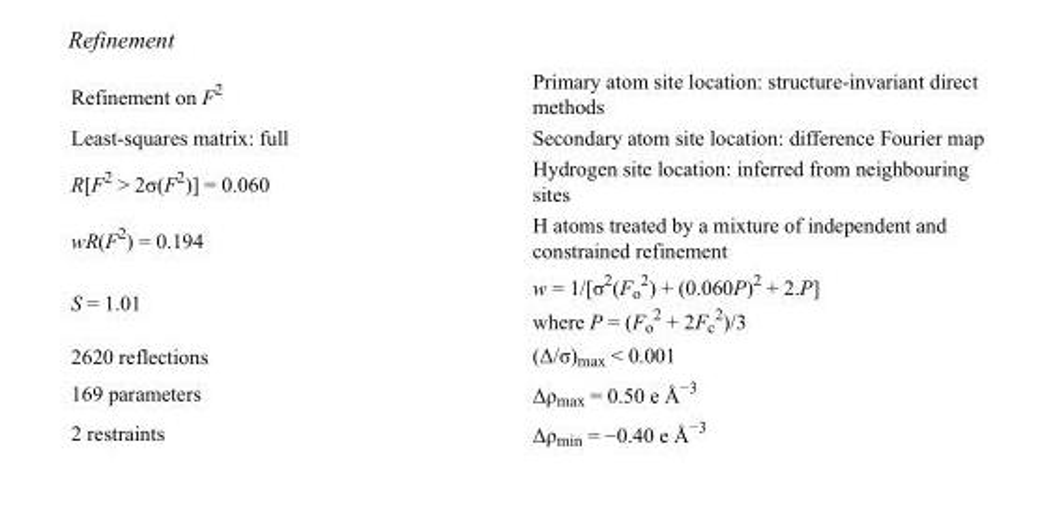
<table><tbody><tr><td>Refinement on F<sup>2</sup></td><td>Primary atom site location: structure-invariant direct methods</td></tr><tr><td>Least-squares matrix: full</td><td>Secondary atom site location: difference Fourier map</td></tr><tr><td>R[F<sup>2</sup> &gt; 2σ(F<sup>2</sup>)] = 0.060</td><td>Hydrogen site location: inferred from neighbouring sites</td></tr><tr><td>wR(F<sup>2</sup>) = 0.194</td><td>H atoms treated by a mixture of independent and constrained refinement</td></tr><tr><td>S = 1.01</td><td>w = 1/[σ<sup>2</sup>(F<sub>o</sub> <sup>2</sup>) + (0.060P)<sup>2</sup> + 2.P] where P = (F<sub>o</sub> <sup>2</sup> + 2F<sub>c</sub> <sup>2</sup>)/3</td></tr><tr><td>2620 reflections</td><td>(Δ/σ)<sub>max</sub> &lt; 0.001</td></tr><tr><td>169 parameters</td><td>Δρ<sub>max</sub> = 0.50 e Å<sup>−3</sup></td></tr><tr><td>2 restraints</td><td>Δρ<sub>min</sub> = −0.40 e Å<sup>−3</sup></td></tr></tbody></table>